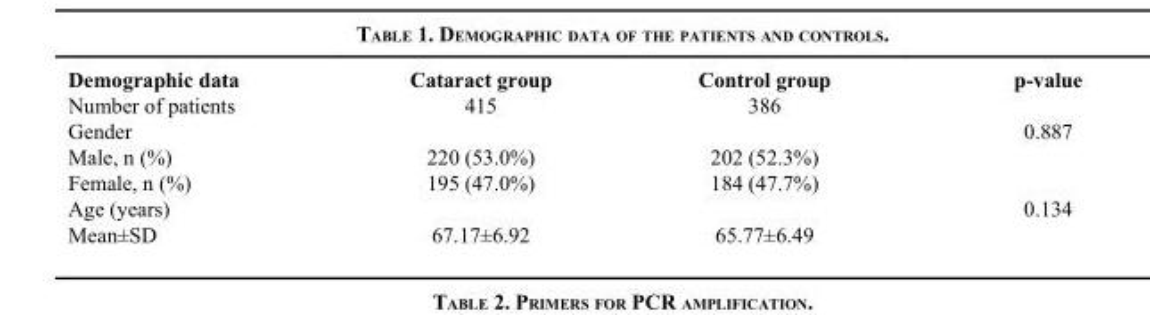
<table><thead><tr><td>Demographic data</td><td>Cataract group</td><td>Control group</td><td>p-value</td></tr></thead><tbody><tr><td>Number of patients</td><td>415</td><td>386</td><td></td></tr><tr><td>Gender</td><td></td><td></td><td>0.887</td></tr><tr><td>Male, n (%)</td><td>220 (53.0%)</td><td>202 (52.3%)</td><td></td></tr><tr><td>Female, n (%)</td><td>195 (47.0%)</td><td>184 (47.7%)</td><td></td></tr><tr><td>Age (years)</td><td></td><td></td><td>0.134</td></tr><tr><td>Mean±SD</td><td>67.17±6.92</td><td>65.77±6.49</td><td></td></tr></tbody></table>